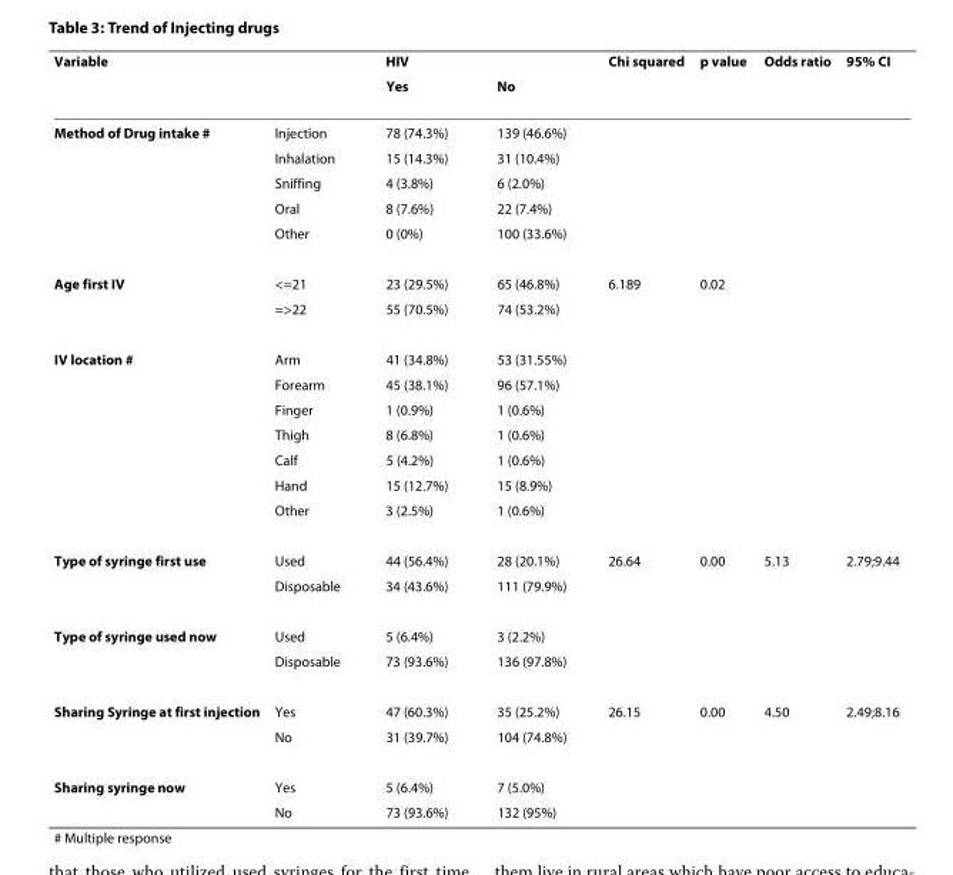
<table><thead><tr><td rowspan="2">Variable</td><td rowspan="2"></td><td rowspan="2">HIV Yes</td><td rowspan="2">No</td><td rowspan="2">Chi squared</td><td rowspan="2">p value</td><td rowspan="2">Odds ratio</td><td rowspan="2">95% CI</td></tr><tr></tr></thead><tbody><tr><td rowspan="5">Method of Drug intake #</td><td>Injection</td><td>78 (74.3%)</td><td>139 (46.6%)</td><td></td><td></td><td></td><td></td></tr><tr><td>Inhalation</td><td>15 (14.3%)</td><td>31 (10.4%)</td><td></td><td></td><td></td><td></td></tr><tr><td>Sniffing</td><td>4 (3.8%)</td><td>6 (2.0%)</td><td></td><td></td><td></td><td></td></tr><tr><td>Oral</td><td>8 (7.6%)</td><td>22 (7.4%)</td><td></td><td></td><td></td><td></td></tr><tr><td>Other</td><td>0 (0%)</td><td>100 (33.6%)</td><td></td><td></td><td></td><td></td></tr><tr><td rowspan="2">Age first IV</td><td>&lt;=21</td><td>23 (29.5%)</td><td>65 (46.8%)</td><td>6.189</td><td>0.02</td><td></td><td></td></tr><tr><td>=&gt;22</td><td>55 (70.5%)</td><td>74 (53.2%)</td><td></td><td></td><td></td><td></td></tr><tr><td rowspan="7">IV location #</td><td>Arm</td><td>41 (34.8%)</td><td>53 (31.55%)</td><td></td><td></td><td></td><td></td></tr><tr><td>Forearm</td><td>45 (38.1%)</td><td>96 (57.1%)</td><td></td><td></td><td></td><td></td></tr><tr><td>Finger</td><td>1 (0.9%)</td><td>1 (0.6%)</td><td></td><td></td><td></td><td></td></tr><tr><td>Thigh</td><td>8 (6.8%)</td><td>1 (0.6%)</td><td></td><td></td><td></td><td></td></tr><tr><td>Calf</td><td>5 (4.2%)</td><td>1 (0.6%)</td><td></td><td></td><td></td><td></td></tr><tr><td>Hand</td><td>15 (12.7%)</td><td>15 (8.9%)</td><td></td><td></td><td></td><td></td></tr><tr><td>Other</td><td>3 (2.5%)</td><td>1 (0.6%)</td><td></td><td></td><td></td><td></td></tr><tr><td rowspan="2">Type of syringe first use</td><td>Used</td><td>44 (56.4%)</td><td>28 (20.1%)</td><td>26.64</td><td>0.00</td><td>5.13</td><td>2.79;9.44</td></tr><tr><td>Disposable</td><td>34 (43.6%)</td><td>111 (79.9%)</td><td></td><td></td><td></td><td></td></tr><tr><td rowspan="2">Type of syringe used now</td><td>Used</td><td>5 (6.4%)</td><td>3 (2.2%)</td><td></td><td></td><td></td><td></td></tr><tr><td>Disposable</td><td>73 (93.6%)</td><td>136 (97.8%)</td><td></td><td></td><td></td><td></td></tr><tr><td rowspan="2">Sharing Syringe at first injection</td><td>Yes</td><td>47 (60.3%)</td><td>35 (25.2%)</td><td>26.15</td><td>0.00</td><td>4.50</td><td>2.49;8.16</td></tr><tr><td>No</td><td>31 (39.7%)</td><td>104 (74.8%)</td><td></td><td></td><td></td><td></td></tr><tr><td rowspan="2">Sharing syringe now</td><td>Yes</td><td>5 (6.4%)</td><td>7 (5.0%)</td><td></td><td></td><td></td><td></td></tr><tr><td>No</td><td>73 (93.6%)</td><td>132 (95%)</td><td></td><td></td><td></td><td></td></tr></tbody></table>